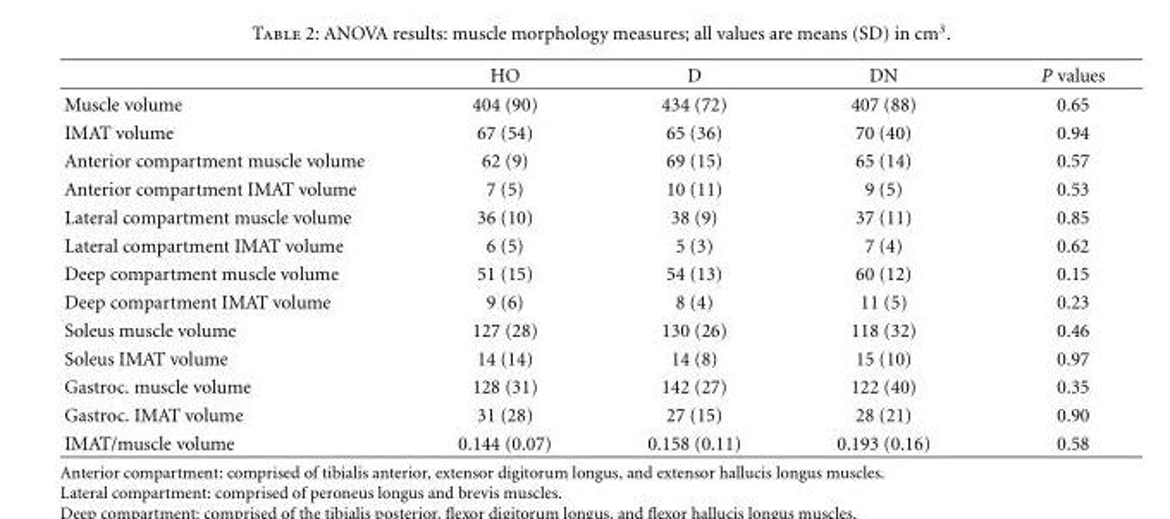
<table><thead><tr><td></td><td>HO</td><td>D</td><td>DN</td><td>P values</td></tr></thead><tbody><tr><td>Muscle volume</td><td>404 (90)</td><td>434 (72)</td><td>407 (88)</td><td>0.65</td></tr><tr><td>IMAT volume</td><td>67 (54)</td><td>65 (36)</td><td>70 (40)</td><td>0.94</td></tr><tr><td>Anterior compartment muscle volume</td><td>62 (9)</td><td>69 (15)</td><td>65 (14)</td><td>0.57</td></tr><tr><td>Anterior compartment IMAT volume</td><td>7 (5)</td><td>10 (11)</td><td>9 (5)</td><td>0.53</td></tr><tr><td>Lateral compartment muscle volume</td><td>36 (10)</td><td>38 (9)</td><td>37 (11)</td><td>0.85</td></tr><tr><td>Lateral compartment IMAT volume</td><td>6 (5)</td><td>5 (3)</td><td>7 (4)</td><td>0.62</td></tr><tr><td>Deep compartment muscle volume</td><td>51 (15)</td><td>54 (13)</td><td>60 (12)</td><td>0.15</td></tr><tr><td>Deep compartment IMAT volume</td><td>9 (6)</td><td>8 (4)</td><td>11 (5)</td><td>0.23</td></tr><tr><td>Soleus muscle volume</td><td>127 (28)</td><td>130 (26)</td><td>118 (32)</td><td>0.46</td></tr><tr><td>Soleus IMAT volume</td><td>14 (14)</td><td>14 (8)</td><td>15 (10)</td><td>0.97</td></tr><tr><td>Gastroc. muscle volume</td><td>128 (31)</td><td>142 (27)</td><td>122 (40)</td><td>0.35</td></tr><tr><td>Gastroc. IMAT volume</td><td>31 (28)</td><td>27 (15)</td><td>28 (21)</td><td>0.90</td></tr><tr><td>IMAT/muscle volume</td><td>0.144 (0.07)</td><td>0.158 (0.11)</td><td>0.193 (0.16)</td><td>0.58</td></tr></tbody></table>